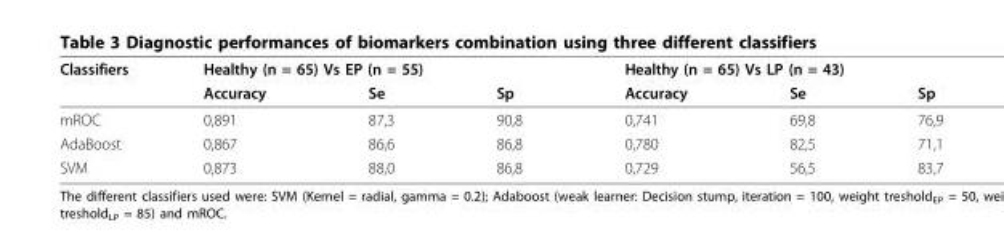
<table><thead><tr><td rowspan="2">Classifiers</td><td colspan="3">Healthy (n = 65) Vs EP (n = 55)</td><td colspan="3">Healthy (n = 65) Vs LP (n = 43)</td></tr><tr><td>Accuracy</td><td>Se</td><td>Sp</td><td>Accuracy</td><td>Se</td><td>Sp</td></tr></thead><tbody><tr><td>mROC</td><td>0,891</td><td>87,3</td><td>90,8</td><td>0,741</td><td>69,8</td><td>76,9</td></tr><tr><td>AdaBoost</td><td>0,867</td><td>86,6</td><td>86,8</td><td>0,780</td><td>82,5</td><td>71,1</td></tr><tr><td>SVM</td><td>0,873</td><td>88,0</td><td>86,8</td><td>0,729</td><td>56,5</td><td>83,7</td></tr></tbody></table>